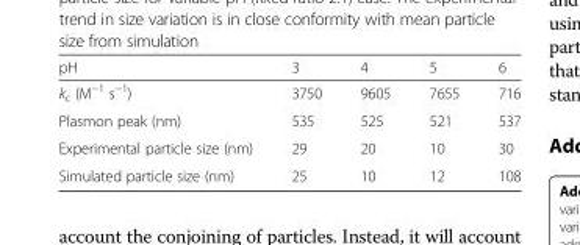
<table><thead><tr><td>pH</td><td>3</td><td>4</td><td>5</td><td>6</td></tr></thead><tbody><tr><td>k<sub>c</sub> (M<sup>−1</sup> s<sup>−1</sup>)</td><td>3750</td><td>9605</td><td>7655</td><td>716</td></tr><tr><td>Plasmon peak (nm)</td><td>535</td><td>525</td><td>521</td><td>537</td></tr><tr><td>Experimental particle size (nm)</td><td>29</td><td>20</td><td>10</td><td>30</td></tr><tr><td>Simulated particle size (nm)</td><td>25</td><td>10</td><td>12</td><td>108</td></tr></tbody></table>